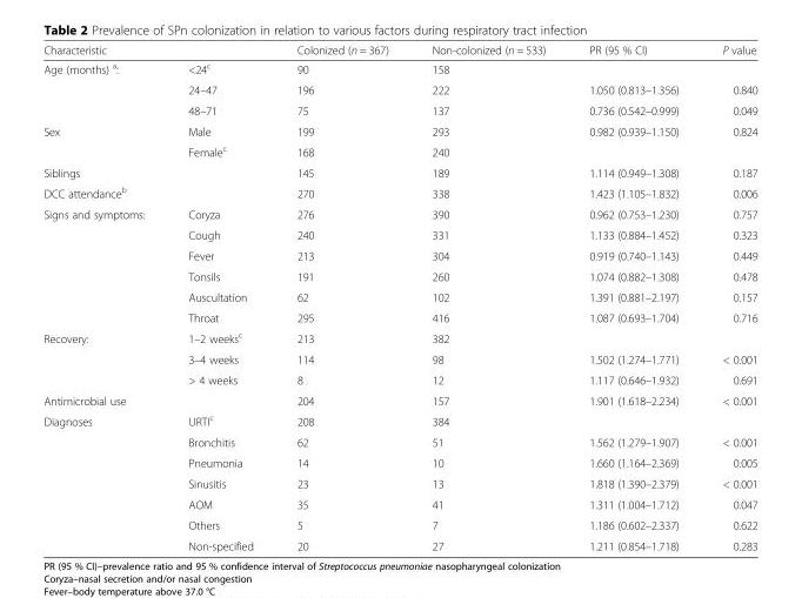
<table><thead><tr><td>Characteristic</td><td></td><td>Colonized (n = 367)</td><td>Non-colonized (n = 533)</td><td>PR (95 % CI)</td><td>P value</td></tr></thead><tbody><tr><td rowspan="3">Age (months) <sup>a</sup>:</td><td>&lt;24<sup>c</sup></td><td>90</td><td>158</td><td></td><td></td></tr><tr><td>24–47</td><td>196</td><td>222</td><td>1.050 (0.813–1.356)</td><td>0.840</td></tr><tr><td>48–71</td><td>75</td><td>137</td><td>0.736 (0.542–0.999)</td><td>0.049</td></tr><tr><td rowspan="2">Sex</td><td>Male</td><td>199</td><td>293</td><td>0.982 (0.939–1.150)</td><td>0.824</td></tr><tr><td>Female<sup>c</sup></td><td>168</td><td>240</td><td></td><td></td></tr><tr><td>Siblings</td><td></td><td>145</td><td>189</td><td>1.114 (0.949–1.308)</td><td>0.187</td></tr><tr><td>DCC attendance<sup>b</sup></td><td></td><td>270</td><td>338</td><td>1.423 (1.105–1.832)</td><td>0.006</td></tr><tr><td rowspan="6">Signs and symptoms:</td><td>Coryza</td><td>276</td><td>390</td><td>0.962 (0.753–1.230)</td><td>0.757</td></tr><tr><td>Cough</td><td>240</td><td>331</td><td>1.133 (0.884–1.452)</td><td>0.323</td></tr><tr><td>Fever</td><td>213</td><td>304</td><td>0.919 (0.740–1.143)</td><td>0.449</td></tr><tr><td>Tonsils</td><td>191</td><td>260</td><td>1.074 (0.882–1.308)</td><td>0.478</td></tr><tr><td>Auscultation</td><td>62</td><td>102</td><td>1.391 (0.881–2.197)</td><td>0.157</td></tr><tr><td>Throat</td><td>295</td><td>416</td><td>1.087 (0.693–1.704)</td><td>0.716</td></tr><tr><td rowspan="3">Recovery:</td><td>1–2 weeks<sup>c</sup></td><td>213</td><td>382</td><td></td><td></td></tr><tr><td>3–4 weeks</td><td>114</td><td>98</td><td>1.502 (1.274–1.771)</td><td>&lt; 0.001</td></tr><tr><td>&gt; 4 weeks</td><td>8</td><td>12</td><td>1.117 (0.646–1.932)</td><td>0.691</td></tr><tr><td>Antimicrobial use</td><td></td><td>204</td><td>157</td><td>1.901 (1.618–2.234)</td><td>&lt; 0.001</td></tr><tr><td rowspan="7">Diagnoses</td><td>URTI<sup>c</sup></td><td>208</td><td>384</td><td></td><td></td></tr><tr><td>Bronchitis</td><td>62</td><td>51</td><td>1.562 (1.279–1.907)</td><td>&lt; 0.001</td></tr><tr><td>Pneumonia</td><td>14</td><td>10</td><td>1.660 (1.164–2.369)</td><td>0.005</td></tr><tr><td>Sinusitis</td><td>23</td><td>13</td><td>1.818 (1.390–2.379)</td><td>&lt; 0.001</td></tr><tr><td>AOM</td><td>35</td><td>41</td><td>1.311 (1.004–1.712)</td><td>0.047</td></tr><tr><td>Others</td><td>5</td><td>7</td><td>1.186 (0.602–2.337)</td><td>0.622</td></tr><tr><td>Non-specified</td><td>20</td><td>27</td><td>1.211 (0.854–1.718)</td><td>0.283</td></tr></tbody></table>